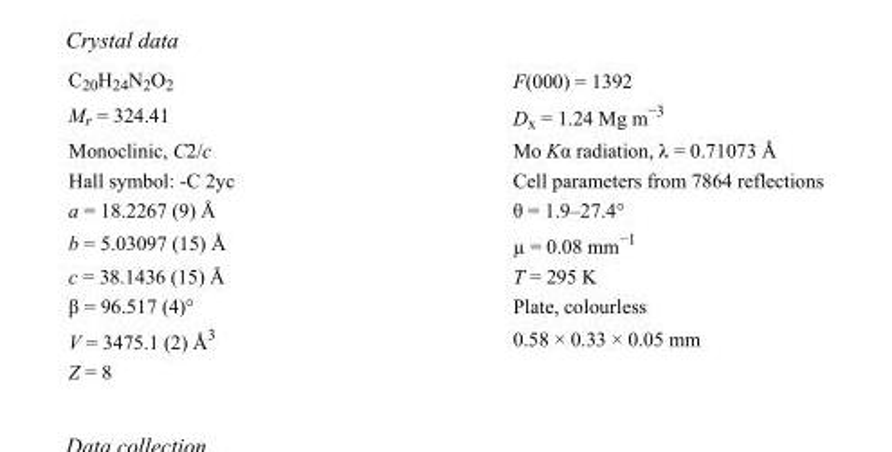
<table><tbody><tr><td>C<sub>20</sub>H<sub>24</sub>N<sub>2</sub>O<sub>2</sub></td><td>F(000) = 1392</td></tr><tr><td>M<sub>r</sub> = 324.41</td><td>D<sub>x</sub> = 1.24 Mg m<sup>−3</sup></td></tr><tr><td>Monoclinic, C2/c</td><td>Mo Kα radiation, λ = 0.71073 Å</td></tr><tr><td>Hall symbol: -C 2yc</td><td>Cell parameters from 7864 reflections</td></tr><tr><td>a = 18.2267 (9) Å</td><td>θ = 1.9–27.4°</td></tr><tr><td>b = 5.03097 (15) Å</td><td>µ = 0.08 mm<sup>−1</sup></td></tr><tr><td>c = 38.1436 (15) Å</td><td>T = 295 K</td></tr><tr><td>β = 96.517 (4)°</td><td>Plate, colourless</td></tr><tr><td>V = 3475.1 (2) Å<sup>3</sup></td><td>0.58 × 0.33 × 0.05 mm</td></tr><tr><td>Z = 8</td><td></td></tr></tbody></table>